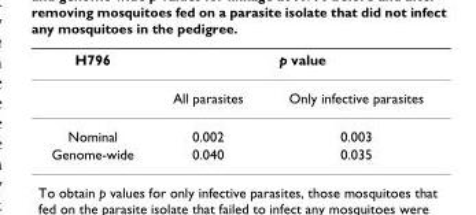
<table><thead><tr><td rowspan="2">H796</td><td colspan="2">p value</td></tr><tr><td>All parasites</td><td>Only infective parasites</td></tr></thead><tbody><tr><td>Nominal</td><td>0.002</td><td>0.003</td></tr><tr><td>Genome-wide</td><td>0.040</td><td>0.035</td></tr></tbody></table>